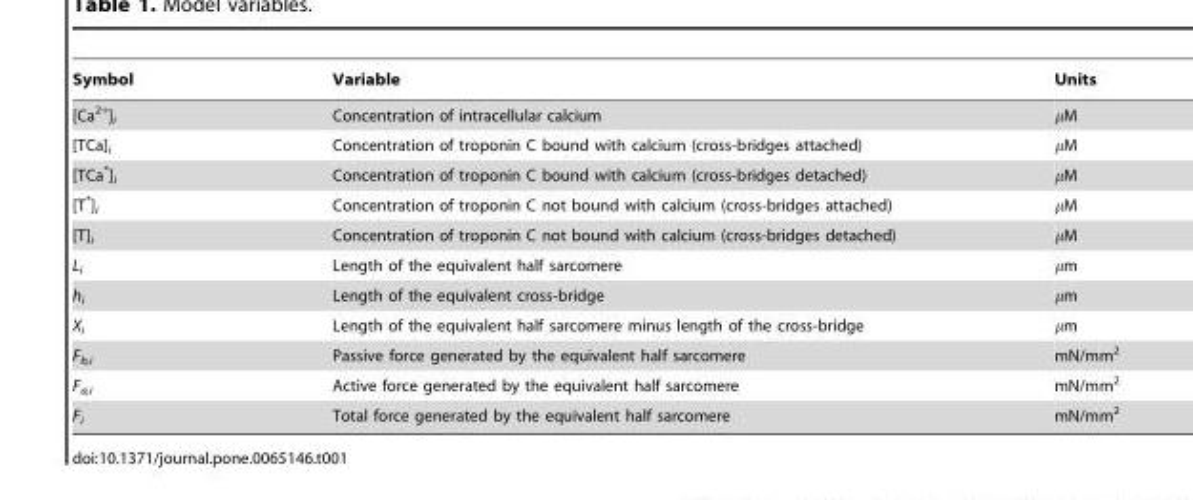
<table><thead><tr><td>Symbol</td><td>Variable</td><td>Units</td></tr></thead><tbody><tr><td>[Ca<sup>2+</sup>]<sub>i</sub></td><td>Concentration of intracellular calcium</td><td>μM</td></tr><tr><td>[TCa]<sub>i</sub></td><td>Concentration of troponin C bound with calcium (cross-bridges attached)</td><td>μM</td></tr><tr><td>[TCa*]<sub>i</sub></td><td>Concentration of troponin C bound with calcium (cross-bridges detached)</td><td>μM</td></tr><tr><td>[T*]<sub>i</sub></td><td>Concentration of troponin C not bound with calcium (cross-bridges attached)</td><td>μM</td></tr><tr><td>[T]<sub>i</sub></td><td>Concentration of troponin C not bound with calcium (cross-bridges detached)</td><td>μM</td></tr><tr><td>L<sub>i</sub></td><td>Length of the equivalent half sarcomere</td><td>μm</td></tr><tr><td>h<sub>i</sub></td><td>Length of the equivalent cross-bridge</td><td>μm</td></tr><tr><td>X<sub>i</sub></td><td>Length of the equivalent half sarcomere minus length of the cross-bridge</td><td>μm</td></tr><tr><td>F<sub>b,i</sub></td><td>Passive force generated by the equivalent half sarcomere</td><td>mN/mm<sup>2</sup></td></tr><tr><td>F<sub>a,i</sub></td><td>Active force generated by the equivalent half sarcomere</td><td>mN/mm<sup>2</sup></td></tr><tr><td>F<sub>i</sub></td><td>Total force generated by the equivalent half sarcomere</td><td>mN/mm<sup>2</sup></td></tr></tbody></table>